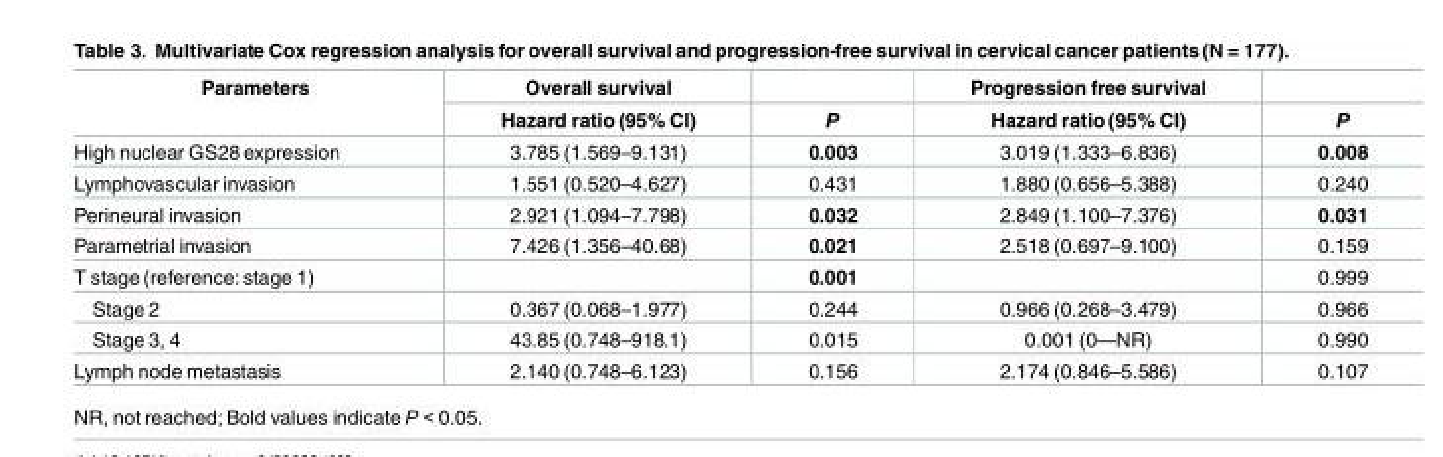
<table><thead><tr><td rowspan="2">Parameters</td><td rowspan="2">Overall survival Hazard ratio (95% CI)</td><td rowspan="2">P</td><td rowspan="2">Progression free survival Hazard ratio (95% CI)</td><td rowspan="2">P</td></tr><tr></tr></thead><tbody><tr><td>High nuclear GS28 expression</td><td>3.785 (1.569–9.131)</td><td>0.003</td><td>3.019 (1.333–6.836)</td><td>0.008</td></tr><tr><td>Lymphovascular invasion</td><td>1.551 (0.520–4.627)</td><td>0.431</td><td>1.880 (0.656–5.388)</td><td>0.240</td></tr><tr><td>Perineural invasion</td><td>2.921 (1.094–7.798)</td><td>0.032</td><td>2.849 (1.100–7.376)</td><td>0.031</td></tr><tr><td>Parametrial invasion</td><td>7.426 (1.356–40.68)</td><td>0.021</td><td>2.518 (0.697–9.100)</td><td>0.159</td></tr><tr><td>T stage (reference: stage 1)</td><td></td><td>0.001</td><td></td><td>0.999</td></tr><tr><td>Stage 2</td><td>0.367 (0.068–1.977)</td><td>0.244</td><td>0.966 (0.268–3.479)</td><td>0.966</td></tr><tr><td>Stage 3, 4</td><td>43.85 (0.748–918.1)</td><td>0.015</td><td>0.001 (0—NR)</td><td>0.990</td></tr><tr><td>Lymph node metastasis</td><td>2.140 (0.748–6.123)</td><td>0.156</td><td>2.174 (0.846–5.586)</td><td>0.107</td></tr></tbody></table>